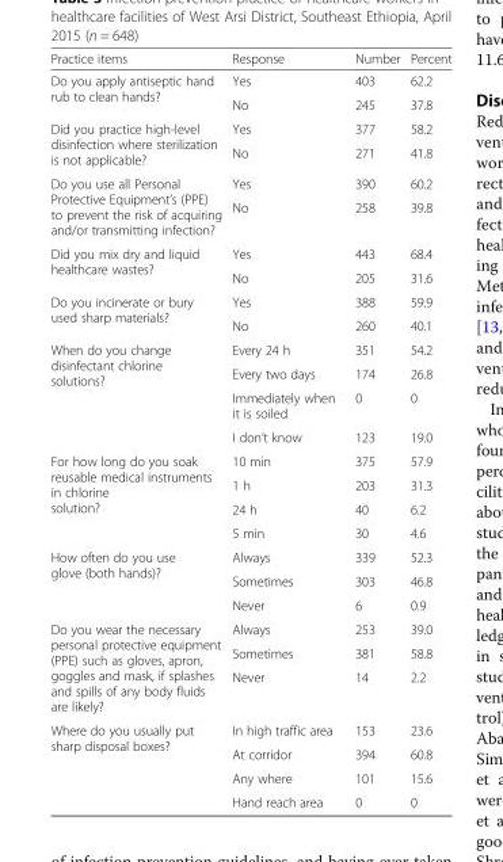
<table><thead><tr><td>Practice items</td><td>Response</td><td>Number</td><td>Percent</td></tr></thead><tbody><tr><td rowspan="2">Do you apply antiseptic hand rub to clean hands?</td><td>Yes</td><td>403</td><td>62.2</td></tr><tr><td>No</td><td>245</td><td>37.8</td></tr><tr><td rowspan="2">Did you practice high-level disinfection where sterilization is not applicable?</td><td>Yes</td><td>377</td><td>58.2</td></tr><tr><td>No</td><td>271</td><td>41.8</td></tr><tr><td rowspan="2">Do you use all Personal Protective Equipment’s (PPE) to prevent the risk of acquiring and/or transmitting infection?</td><td>Yes</td><td>390</td><td>60.2</td></tr><tr><td>No</td><td>258</td><td>39.8</td></tr><tr><td rowspan="2">Did you mix dry and liquid healthcare wastes?</td><td>Yes</td><td>443</td><td>68.4</td></tr><tr><td>No</td><td>205</td><td>31.6</td></tr><tr><td rowspan="2">Do you incinerate or bury used sharp materials?</td><td>Yes</td><td>388</td><td>59.9</td></tr><tr><td>No</td><td>260</td><td>40.1</td></tr><tr><td rowspan="4">When do you change disinfectant chlorine solutions?</td><td>Every 24 h</td><td>351</td><td>54.2</td></tr><tr><td>Every two days</td><td>174</td><td>26.8</td></tr><tr><td>Immediately when it is soiled</td><td>0</td><td>0</td></tr><tr><td>I don’t know</td><td>123</td><td>19.0</td></tr><tr><td rowspan="4">For how long do you soak reusable medical instruments in chlorine solution?</td><td>10 min</td><td>375</td><td>57.9</td></tr><tr><td>1 h</td><td>203</td><td>31.3</td></tr><tr><td>24 h</td><td>40</td><td>6.2</td></tr><tr><td>5 min</td><td>30</td><td>4.6</td></tr><tr><td rowspan="3">How often do you use glove (both hands)?</td><td>Always</td><td>339</td><td>52.3</td></tr><tr><td>Sometimes</td><td>303</td><td>46.8</td></tr><tr><td>Never</td><td>6</td><td>0.9</td></tr><tr><td rowspan="3">Do you wear the necessary personal protective equipment (PPE) such as gloves, apron, goggles and mask, if splashes and spills of any body fluids are likely?</td><td>Always</td><td>253</td><td>39.0</td></tr><tr><td>Sometimes</td><td>381</td><td>58.8</td></tr><tr><td>Never</td><td>14</td><td>2.2</td></tr><tr><td rowspan="4">Where do you usually put sharp disposal boxes?</td><td>In high traffic area</td><td>153</td><td>23.6</td></tr><tr><td>At corridor</td><td>394</td><td>60.8</td></tr><tr><td>Any where</td><td>101</td><td>15.6</td></tr><tr><td>Hand reach area</td><td>0</td><td>0</td></tr></tbody></table>